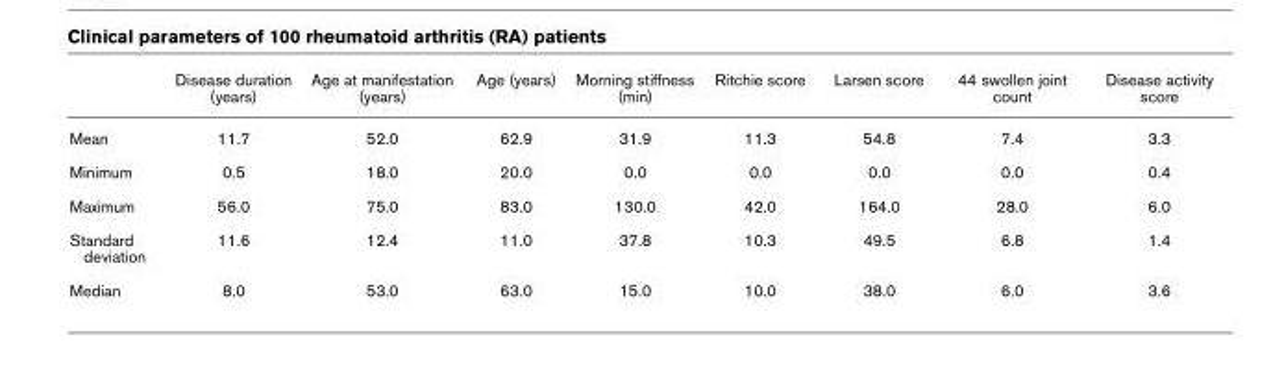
<table><thead><tr><td></td><td>Disease duration (years)</td><td>Age at manifestation (years)</td><td>Age (years)</td><td>Morning stiffness (min)</td><td>Ritchie score</td><td>Larsen score</td><td>44 swollen joint count</td><td>Disease activity score</td></tr></thead><tbody><tr><td>Mean</td><td>11.7</td><td>52.0</td><td>62.9</td><td>31.9</td><td>11.3</td><td>54.8</td><td>7.4</td><td>3.3</td></tr><tr><td>Minimum</td><td>0.5</td><td>18.0</td><td>20.0</td><td>0.0</td><td>0.0</td><td>0.0</td><td>0.0</td><td>0.4</td></tr><tr><td>Maximum</td><td>56.0</td><td>75.0</td><td>83.0</td><td>130.0</td><td>42.0</td><td>164.0</td><td>28.0</td><td>6.0</td></tr><tr><td>Standard deviation</td><td>11.6</td><td>12.4</td><td>11.0</td><td>37.8</td><td>10.3</td><td>49.5</td><td>6.8</td><td>1.4</td></tr><tr><td>Median</td><td>8.0</td><td>53.0</td><td>63.0</td><td>15.0</td><td>10.0</td><td>38.0</td><td>6.0</td><td>3.6</td></tr></tbody></table>